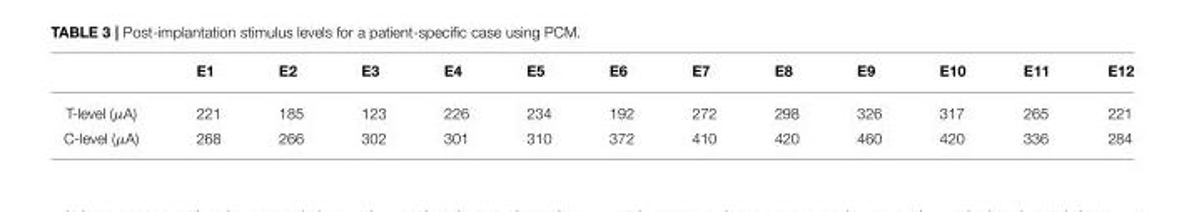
<table><thead><tr><td></td><td>E1</td><td>E2</td><td>E3</td><td>E4</td><td>E5</td><td>E6</td><td>E7</td><td>E8</td><td>E9</td><td>E10</td><td>E11</td><td>E12</td></tr></thead><tbody><tr><td>T-level (µA)</td><td>221</td><td>185</td><td>123</td><td>226</td><td>234</td><td>192</td><td>272</td><td>298</td><td>326</td><td>317</td><td>265</td><td>221</td></tr><tr><td>C-level (µA)</td><td>268</td><td>266</td><td>302</td><td>301</td><td>310</td><td>372</td><td>410</td><td>420</td><td>460</td><td>420</td><td>336</td><td>284</td></tr></tbody></table>